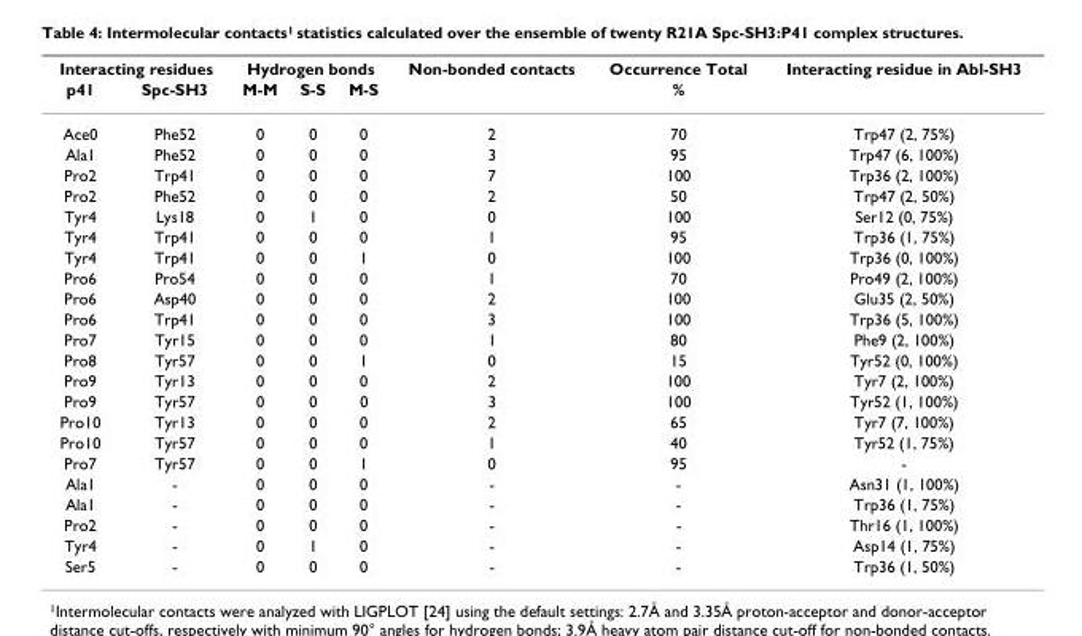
<table><thead><tr><td colspan="2">Interacting residues</td><td colspan="3">Hydrogen bonds</td><td rowspan="2">Non-bonded contacts</td><td rowspan="2">Occurrence Total %</td><td rowspan="2">Interacting residue in Abl-SH3</td></tr><tr><td>p41</td><td>Spc-SH3</td><td>M-M</td><td>S-S</td><td>M-S</td></tr></thead><tbody><tr><td>Ace0</td><td>Phe52</td><td>0</td><td>0</td><td>0</td><td>2</td><td>70</td><td>Trp47 (2, 75%)</td></tr><tr><td>Ala1</td><td>Phe52</td><td>0</td><td>0</td><td>0</td><td>3</td><td>95</td><td>Trp47 (6, 100%)</td></tr><tr><td>Pro2</td><td>Trp41</td><td>0</td><td>0</td><td>0</td><td>7</td><td>100</td><td>Trp36 (2, 100%)</td></tr><tr><td>Pro2</td><td>Phe52</td><td>0</td><td>0</td><td>0</td><td>2</td><td>50</td><td>Trp47 (2, 50%)</td></tr><tr><td>Tyr4</td><td>Lys18</td><td>0</td><td>1</td><td>0</td><td>0</td><td>100</td><td>Ser12 (0, 75%)</td></tr><tr><td>Tyr4</td><td>Trp41</td><td>0</td><td>0</td><td>0</td><td>1</td><td>95</td><td>Trp36 (1, 75%)</td></tr><tr><td>Tyr4</td><td>Trp41</td><td>0</td><td>0</td><td>1</td><td>0</td><td>100</td><td>Trp36 (0, 100%)</td></tr><tr><td>Pro6</td><td>Pro54</td><td>0</td><td>0</td><td>0</td><td>1</td><td>70</td><td>Pro49 (2, 100%)</td></tr><tr><td>Pro6</td><td>Asp40</td><td>0</td><td>0</td><td>0</td><td>2</td><td>100</td><td>Glu35 (2, 50%)</td></tr><tr><td>Pro6</td><td>Trp41</td><td>0</td><td>0</td><td>0</td><td>3</td><td>100</td><td>Trp36 (5, 100%)</td></tr><tr><td>Pro7</td><td>Tyr15</td><td>0</td><td>0</td><td>0</td><td>1</td><td>80</td><td>Phe9 (2, 100%)</td></tr><tr><td>Pro8</td><td>Tyr57</td><td>0</td><td>0</td><td>1</td><td>0</td><td>15</td><td>Tyr52 (0, 100%)</td></tr><tr><td>Pro9</td><td>Tyr13</td><td>0</td><td>0</td><td>0</td><td>2</td><td>100</td><td>Tyr7 (2, 100%)</td></tr><tr><td>Pro9</td><td>Tyr57</td><td>0</td><td>0</td><td>0</td><td>3</td><td>100</td><td>Tyr52 (1, 100%)</td></tr><tr><td>Pro10</td><td>Tyr13</td><td>0</td><td>0</td><td>0</td><td>2</td><td>65</td><td>Tyr7 (7, 100%)</td></tr><tr><td>Pro10</td><td>Tyr57</td><td>0</td><td>0</td><td>0</td><td>1</td><td>40</td><td>Tyr52 (1, 75%)</td></tr><tr><td>Pro7</td><td>Tyr57</td><td>0</td><td>0</td><td>1</td><td>0</td><td>95</td><td>-</td></tr><tr><td>Ala1</td><td>-</td><td>0</td><td>0</td><td>0</td><td>-</td><td>-</td><td>Asn31 (1, 100%)</td></tr><tr><td>Ala1</td><td>-</td><td>0</td><td>0</td><td>0</td><td>-</td><td>-</td><td>Trp36 (1, 75%)</td></tr><tr><td>Pro2</td><td>-</td><td>0</td><td>0</td><td>0</td><td>-</td><td>-</td><td>Thr16 (1, 100%)</td></tr><tr><td>Tyr4</td><td>-</td><td>0</td><td>1</td><td>0</td><td>-</td><td>-</td><td>Asp14 (1, 75%)</td></tr><tr><td>Ser5</td><td>-</td><td>0</td><td>0</td><td>0</td><td>-</td><td>-</td><td>Trp36 (1, 50%)</td></tr></tbody></table>